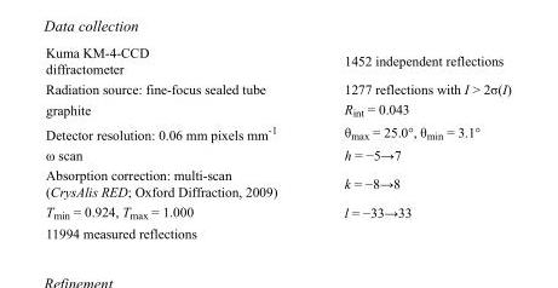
<table><tbody><tr><td>Kuma KM-4-CCD diffractometer</td><td>1452 independent reflections</td></tr><tr><td>Radiation source: fine-focus sealed tube</td><td>1277 reflections with I &gt; 2σ(I)</td></tr><tr><td>graphite</td><td>R<sub>int</sub> = 0.043</td></tr><tr><td>Detector resolution: 0.06 mm pixels mm<sup>-1</sup></td><td>θ<sub>max</sub> = 25.0°, θ<sub>min</sub> = 3.1°</td></tr><tr><td>ω scan</td><td>h = −5→7</td></tr><tr><td>Absorption correction: multi-scan (CrysAlis RED; Oxford Diffraction, 2009)</td><td>k = −8→8</td></tr><tr><td>T<sub>min</sub> = 0.924, T<sub>max</sub> = 1.000</td><td>l = −33→33</td></tr><tr><td>11994 measured reflections</td><td></td></tr></tbody></table>